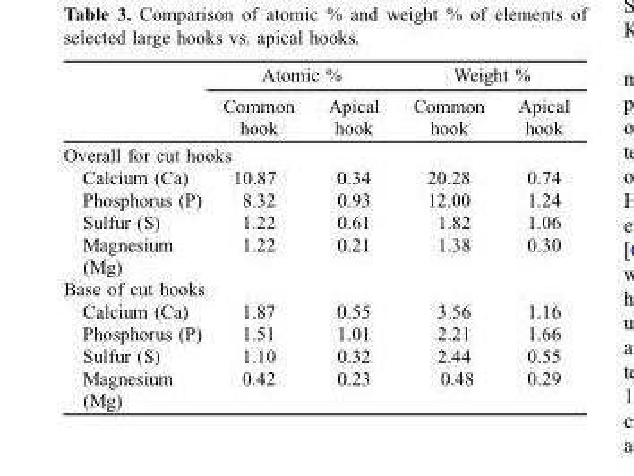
<table><thead><tr><td rowspan="2"></td><td colspan="2">Atomic %</td><td colspan="2">Weight %</td></tr><tr><td>Common hook</td><td>Apical hook</td><td>Common hook</td><td>Apical hook</td></tr></thead><tbody><tr><td colspan="5">Overall for cut hooks</td></tr><tr><td>Calcium (Ca)</td><td>10.87</td><td>0.34</td><td>20.28</td><td>0.74</td></tr><tr><td>Phosphorus (P)</td><td>8.32</td><td>0.93</td><td>12.00</td><td>1.24</td></tr><tr><td>Sulfur (S)</td><td>1.22</td><td>0.61</td><td>1.82</td><td>1.06</td></tr><tr><td>Magnesium (Mg)</td><td>1.22</td><td>0.21</td><td>1.38</td><td>0.30</td></tr><tr><td colspan="5">Base of cut hooks</td></tr><tr><td>Calcium (Ca)</td><td>1.87</td><td>0.55</td><td>3.56</td><td>1.16</td></tr><tr><td>Phosphorus (P)</td><td>1.51</td><td>1.01</td><td>2.21</td><td>1.66</td></tr><tr><td>Sulfur (S)</td><td>1.10</td><td>0.32</td><td>2.44</td><td>0.55</td></tr><tr><td>Magnesium (Mg)</td><td>0.42</td><td>0.23</td><td>0.48</td><td>0.29</td></tr></tbody></table>